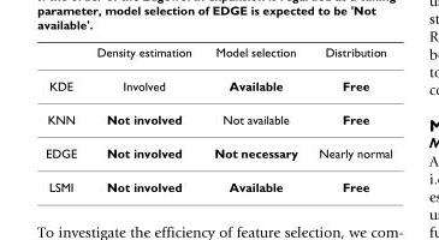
<table><thead><tr><td></td><td>Density estimation</td><td>Model selection</td><td>Distribution</td></tr></thead><tbody><tr><td>KDE</td><td>Involved</td><td>Available</td><td>Free</td></tr><tr><td>KNN</td><td>Not involved</td><td>Not available</td><td>Free</td></tr><tr><td>EDGE</td><td>Not involved</td><td>Not necessary</td><td>Nearly normal</td></tr><tr><td>LSMI</td><td>Not involved</td><td>Available</td><td>Free</td></tr></tbody></table>